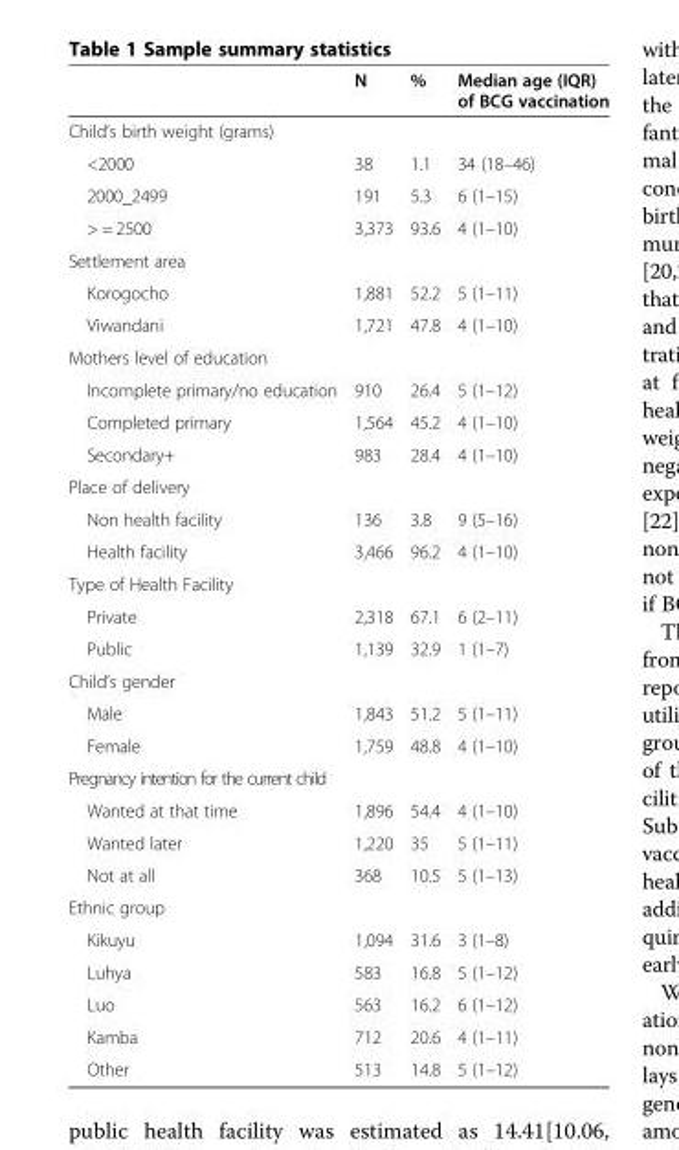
<table><thead><tr><td></td><td>N</td><td>%</td><td>Median age (IQR) of BCG vaccination</td></tr></thead><tbody><tr><td colspan="4">Child’s birth weight (grams)</td></tr><tr><td>&lt;2000</td><td>38</td><td>1.1</td><td>34 (18–46)</td></tr><tr><td>2000_2499</td><td>191</td><td>5.3</td><td>6 (1–15)</td></tr><tr><td>&gt; = 2500</td><td>3,373</td><td>93.6</td><td>4 (1–10)</td></tr><tr><td colspan="4">Settlement area</td></tr><tr><td>Korogocho</td><td>1,881</td><td>52.2</td><td>5 (1–11)</td></tr><tr><td>Viwandani</td><td>1,721</td><td>47.8</td><td>4 (1–10)</td></tr><tr><td colspan="4">Mothers level of education</td></tr><tr><td>Incomplete primary/no education</td><td>910</td><td>26.4</td><td>5 (1–12)</td></tr><tr><td>Completed primary</td><td>1,564</td><td>45.2</td><td>4 (1–10)</td></tr><tr><td>Secondary+</td><td>983</td><td>28.4</td><td>4 (1–10)</td></tr><tr><td colspan="4">Place of delivery</td></tr><tr><td>Non health facility</td><td>136</td><td>3.8</td><td>9 (5–16)</td></tr><tr><td>Health facility</td><td>3,466</td><td>96.2</td><td>4 (1–10)</td></tr><tr><td colspan="4">Type of Health Facility</td></tr><tr><td>Private</td><td>2,318</td><td>67.1</td><td>6 (2–11)</td></tr><tr><td>Public</td><td>1,139</td><td>32.9</td><td>1 (1–7)</td></tr><tr><td colspan="4">Child’s gender</td></tr><tr><td>Male</td><td>1,843</td><td>51.2</td><td>5 (1–11)</td></tr><tr><td>Female</td><td>1,759</td><td>48.8</td><td>4 (1–10)</td></tr><tr><td colspan="4">Pregnancy intention for the current child</td></tr><tr><td>Wanted at that time</td><td>1,896</td><td>54.4</td><td>4 (1–10)</td></tr><tr><td>Wanted later</td><td>1,220</td><td>35</td><td>5 (1–11)</td></tr><tr><td>Not at all</td><td>368</td><td>10.5</td><td>5 (1–13)</td></tr><tr><td colspan="4">Ethnic group</td></tr><tr><td>Kikuyu</td><td>1,094</td><td>31.6</td><td>3 (1–8)</td></tr><tr><td>Luhya</td><td>583</td><td>16.8</td><td>5 (1–12)</td></tr><tr><td>Luo</td><td>563</td><td>16.2</td><td>6 (1–12)</td></tr><tr><td>Kamba</td><td>712</td><td>20.6</td><td>4 (1–11)</td></tr><tr><td>Other</td><td>513</td><td>14.8</td><td>5 (1–12)</td></tr></tbody></table>